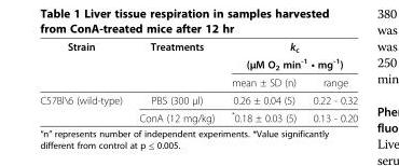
<table><thead><tr><td rowspan="3">Strain</td><td rowspan="3">Treatments</td><td rowspan="2" colspan="2">kc (μM O2 min-1 • mg-1)</td></tr><tr></tr><tr><td>mean ± SD (n)</td><td>range</td></tr></thead><tbody><tr><td rowspan="2">C57Bl\6 (wild-type)</td><td>PBS (300 μl)</td><td>0.26 ± 0.04 (5)</td><td>0.22 - 0.32</td></tr><tr><td>ConA (12 mg/kg)</td><td>*0.18 ± 0.03 (5)</td><td>0.13 - 0.20</td></tr></tbody></table>